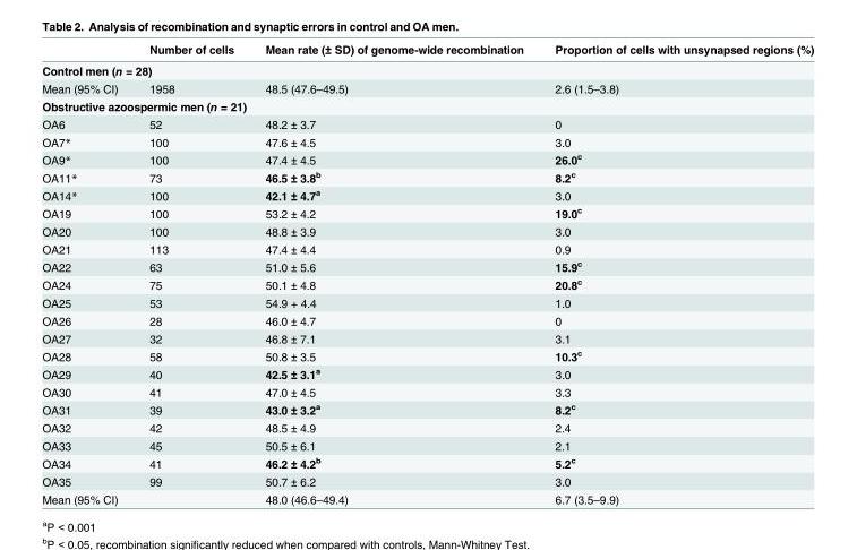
<table><thead><tr><td></td><td>Number of cells</td><td>Mean rate (± SD) of genome-wide recombination</td><td>Proportion of cells with unsynapsed regions (%)</td></tr></thead><tbody><tr><td colspan="4">Control men (n = 28)</td></tr><tr><td>Mean (95% CI)</td><td>1958</td><td>48.5 (47.6–49.5)</td><td>2.6 (1.5–3.8)</td></tr><tr><td colspan="4">Obstructive azoospermic men (n = 21)</td></tr><tr><td>OA6</td><td>52</td><td>48.2 ± 3.7</td><td>0</td></tr><tr><td>OA7*</td><td>100</td><td>47.6 ± 4.5</td><td>3.0</td></tr><tr><td>OA9*</td><td>100</td><td>47.4 ± 4.5</td><td>26.0<sup>c</sup></td></tr><tr><td>OA11*</td><td>73</td><td>46.5 ± 3.8<sup>b</sup></td><td>8.2<sup>c</sup></td></tr><tr><td>OA14*</td><td>100</td><td>42.1 ± 4.7<sup>a</sup></td><td>3.0</td></tr><tr><td>OA19</td><td>100</td><td>53.2 ± 4.2</td><td>19.0<sup>c</sup></td></tr><tr><td>OA20</td><td>100</td><td>48.8 ± 3.9</td><td>3.0</td></tr><tr><td>OA21</td><td>113</td><td>47.4 ± 4.4</td><td>0.9</td></tr><tr><td>OA22</td><td>63</td><td>51.0 ± 5.6</td><td>15.9<sup>c</sup></td></tr><tr><td>OA24</td><td>75</td><td>50.1 ± 4.8</td><td>20.8<sup>c</sup></td></tr><tr><td>OA25</td><td>53</td><td>54.9 + 4.4</td><td>1.0</td></tr><tr><td>OA26</td><td>28</td><td>46.0 ± 4.7</td><td>0</td></tr><tr><td>OA27</td><td>32</td><td>46.8 ± 7.1</td><td>3.1</td></tr><tr><td>OA28</td><td>58</td><td>50.8 ± 3.5</td><td>10.3<sup>c</sup></td></tr><tr><td>OA29</td><td>40</td><td>42.5 ± 3.1<sup>a</sup></td><td>3.0</td></tr><tr><td>OA30</td><td>41</td><td>47.0 ± 4.5</td><td>3.3</td></tr><tr><td>OA31</td><td>39</td><td>43.0 ± 3.2<sup>a</sup></td><td>8.2<sup>c</sup></td></tr><tr><td>OA32</td><td>42</td><td>48.5 ± 4.9</td><td>2.4</td></tr><tr><td>OA33</td><td>45</td><td>50.5 ± 6.1</td><td>2.1</td></tr><tr><td>OA34</td><td>41</td><td>46.2 ± 4.2<sup>b</sup></td><td>5.2<sup>c</sup></td></tr><tr><td>OA35</td><td>99</td><td>50.7 ± 6.2</td><td>3.0</td></tr><tr><td>Mean (95% CI)</td><td></td><td>48.0 (46.6–49.4)</td><td>6.7 (3.5–9.9)</td></tr></tbody></table>